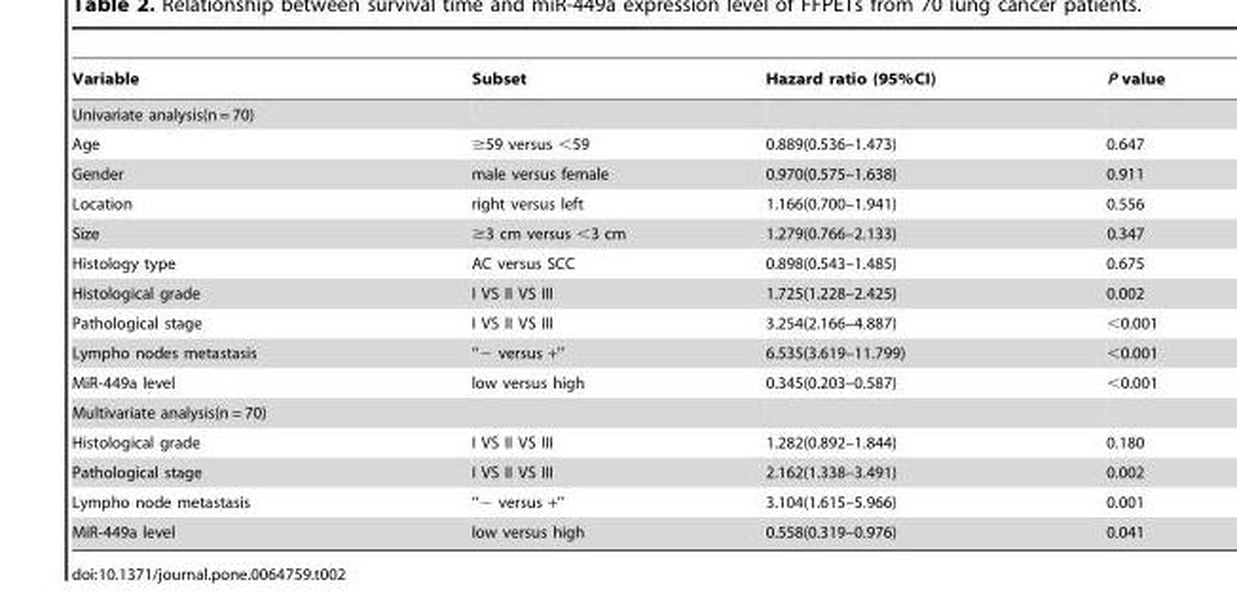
<table><thead><tr><td>Variable</td><td>Subset</td><td>Hazard ratio (95%CI)</td><td>P value</td></tr></thead><tbody><tr><td colspan="4">Univariate analysis(n = 70)</td></tr><tr><td>Age</td><td>≥59 versus &lt;59</td><td>0.889(0.536–1.473)</td><td>0.647</td></tr><tr><td>Gender</td><td>male versus female</td><td>0.970(0.575–1.638)</td><td>0.911</td></tr><tr><td>Location</td><td>right versus left</td><td>1.166(0.700–1.941)</td><td>0.556</td></tr><tr><td>Size</td><td>≥3 cm versus &lt;3 cm</td><td>1.279(0.766–2.133)</td><td>0.347</td></tr><tr><td>Histology type</td><td>AC versus SCC</td><td>0.898(0.543–1.485)</td><td>0.675</td></tr><tr><td>Histological grade</td><td>I VS II VS III</td><td>1.725(1.228–2.425)</td><td>0.002</td></tr><tr><td>Pathological stage</td><td>I VS II VS III</td><td>3.254(2.166–4.887)</td><td>&lt;0.001</td></tr><tr><td>Lympho nodes metastasis</td><td>‘‘2 versus +’’</td><td>6.535(3.619–11.799)</td><td>&lt;0.001</td></tr><tr><td>MiR-449a level</td><td>low versus high</td><td>0.345(0.203–0.587)</td><td>&lt;0.001</td></tr><tr><td colspan="4">Multivariate analysis(n = 70)</td></tr><tr><td>Histological grade</td><td>I VS II VS III</td><td>1.282(0.892–1.844)</td><td>0.180</td></tr><tr><td>Pathological stage</td><td>I VS II VS III</td><td>2.162(1.338–3.491)</td><td>0.002</td></tr><tr><td>Lympho node metastasis</td><td>‘‘2 versus +’’</td><td>3.104(1.615–5.966)</td><td>0.001</td></tr><tr><td>MiR-449a level</td><td>low versus high</td><td>0.558(0.319–0.976)</td><td>0.041</td></tr></tbody></table>